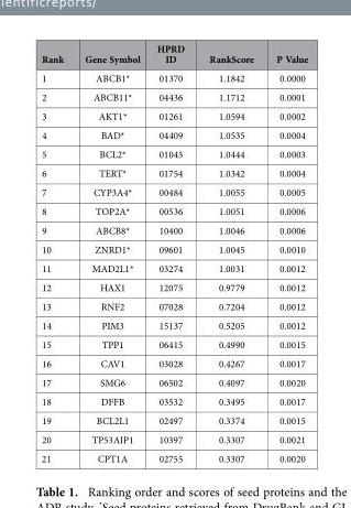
<table><thead><tr><td>Rank</td><td>Gene Symbol</td><td>HPRD ID</td><td>RankScore</td><td>P Value</td></tr></thead><tbody><tr><td>1</td><td>ABCB1*</td><td>01370</td><td>1.1842</td><td>0.0000</td></tr><tr><td>2</td><td>ABCB11*</td><td>04436</td><td>1.1712</td><td>0.0001</td></tr><tr><td>3</td><td>AKT1*</td><td>01261</td><td>1.0594</td><td>0.0002</td></tr><tr><td>4</td><td>BAD*</td><td>04409</td><td>1.0535</td><td>0.0004</td></tr><tr><td>5</td><td>BCL2*</td><td>01045</td><td>1.0444</td><td>0.0003</td></tr><tr><td>6</td><td>TERT*</td><td>01754</td><td>1.0342</td><td>0.0004</td></tr><tr><td>7</td><td>CYP3A4*</td><td>00484</td><td>1.0055</td><td>0.0005</td></tr><tr><td>8</td><td>TOP2A*</td><td>00536</td><td>1.0051</td><td>0.0006</td></tr><tr><td>9</td><td>ABCB8*</td><td>10400</td><td>1.0046</td><td>0.0006</td></tr><tr><td>10</td><td>ZNRD1*</td><td>09601</td><td>1.0045</td><td>0.0010</td></tr><tr><td>11</td><td>MAD2L1*</td><td>03274</td><td>1.0031</td><td>0.0012</td></tr><tr><td>12</td><td>HAX1</td><td>12075</td><td>0.9779</td><td>0.0012</td></tr><tr><td>13</td><td>RNF2</td><td>07028</td><td>0.7204</td><td>0.0012</td></tr><tr><td>14</td><td>PIM3</td><td>15137</td><td>0.5205</td><td>0.0012</td></tr><tr><td>15</td><td>TPP1</td><td>06415</td><td>0.4990</td><td>0.0015</td></tr><tr><td>16</td><td>CAV1</td><td>03028</td><td>0.4267</td><td>0.0017</td></tr><tr><td>17</td><td>SMG6</td><td>06502</td><td>0.4097</td><td>0.0020</td></tr><tr><td>18</td><td>DFFB</td><td>03532</td><td>0.3495</td><td>0.0017</td></tr><tr><td>19</td><td>BCL2L1</td><td>02497</td><td>0.3374</td><td>0.0015</td></tr><tr><td>20</td><td>TP53AIP1</td><td>10397</td><td>0.3307</td><td>0.0021</td></tr><tr><td>21</td><td>CPT1A</td><td>02755</td><td>0.3307</td><td>0.0020</td></tr></tbody></table>